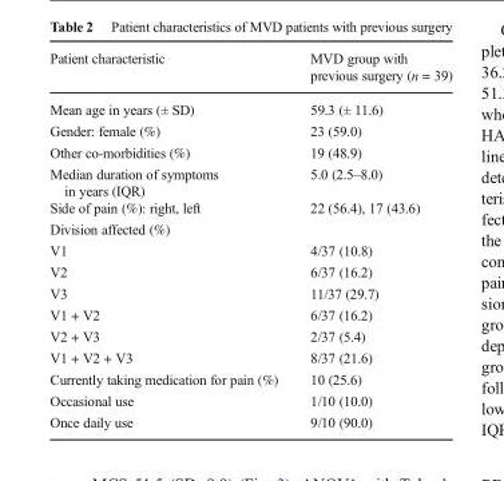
<table><thead><tr><td>Patient characteristic</td><td>MVD group with previous surgery (n = 39)</td></tr></thead><tbody><tr><td>Mean age in years (± SD)</td><td>59.3 (± 11.6)</td></tr><tr><td>Gender: female (%)</td><td>23 (59.0)</td></tr><tr><td>Other co-morbidities (%)</td><td>19 (48.9)</td></tr><tr><td>Median duration of symptoms in years (IQR)</td><td>5.0 (2.5–8.0)</td></tr><tr><td>Side of pain (%): right, left</td><td>22 (56.4), 17 (43.6)</td></tr><tr><td colspan="2">Division affected (%)</td></tr><tr><td>V1</td><td>4/37 (10.8)</td></tr><tr><td>V2</td><td>6/37 (16.2)</td></tr><tr><td>V3</td><td>11/37 (29.7)</td></tr><tr><td>V1 + V2</td><td>6/37 (16.2)</td></tr><tr><td>V2 + V3</td><td>2/37 (5.4)</td></tr><tr><td>V1 + V2 + V3</td><td>8/37 (21.6)</td></tr><tr><td>Currently taking medication for pain (%)</td><td>10 (25.6)</td></tr><tr><td>Occasional use</td><td>1/10 (10.0)</td></tr><tr><td>Once daily use</td><td>9/10 (90.0)</td></tr></tbody></table>